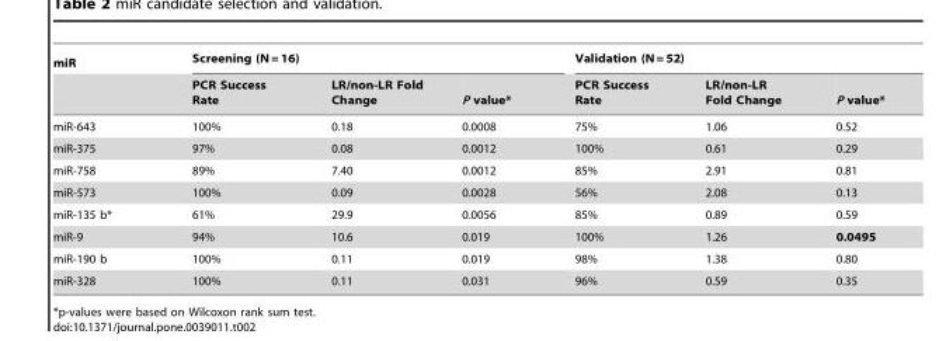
<table><thead><tr><td rowspan="2">miR</td><td colspan="3">Screening (N = 16)</td><td colspan="3">Validation (N = 52)</td></tr><tr><td>PCR Success Rate</td><td>LR/non-LR Fold Change</td><td>P value*</td><td>PCR Success Rate</td><td>LR/non-LR Fold Change</td><td>P value*</td></tr></thead><tbody><tr><td>miR-643</td><td>100%</td><td>0.18</td><td>0.0008</td><td>75%</td><td>1.06</td><td>0.52</td></tr><tr><td>miR-375</td><td>97%</td><td>0.08</td><td>0.0012</td><td>100%</td><td>0.61</td><td>0.29</td></tr><tr><td>miR-758</td><td>89%</td><td>7.40</td><td>0.0012</td><td>85%</td><td>2.91</td><td>0.81</td></tr><tr><td>miR-573</td><td>100%</td><td>0.09</td><td>0.0028</td><td>56%</td><td>2.08</td><td>0.13</td></tr><tr><td>miR-135 b*</td><td>61%</td><td>29.9</td><td>0.0056</td><td>85%</td><td>0.89</td><td>0.59</td></tr><tr><td>miR-9</td><td>94%</td><td>10.6</td><td>0.019</td><td>100%</td><td>1.26</td><td>0.0495</td></tr><tr><td>miR-190 b</td><td>100%</td><td>0.11</td><td>0.019</td><td>98%</td><td>1.38</td><td>0.80</td></tr><tr><td>miR-328</td><td>100%</td><td>0.11</td><td>0.031</td><td>96%</td><td>0.59</td><td>0.35</td></tr></tbody></table>